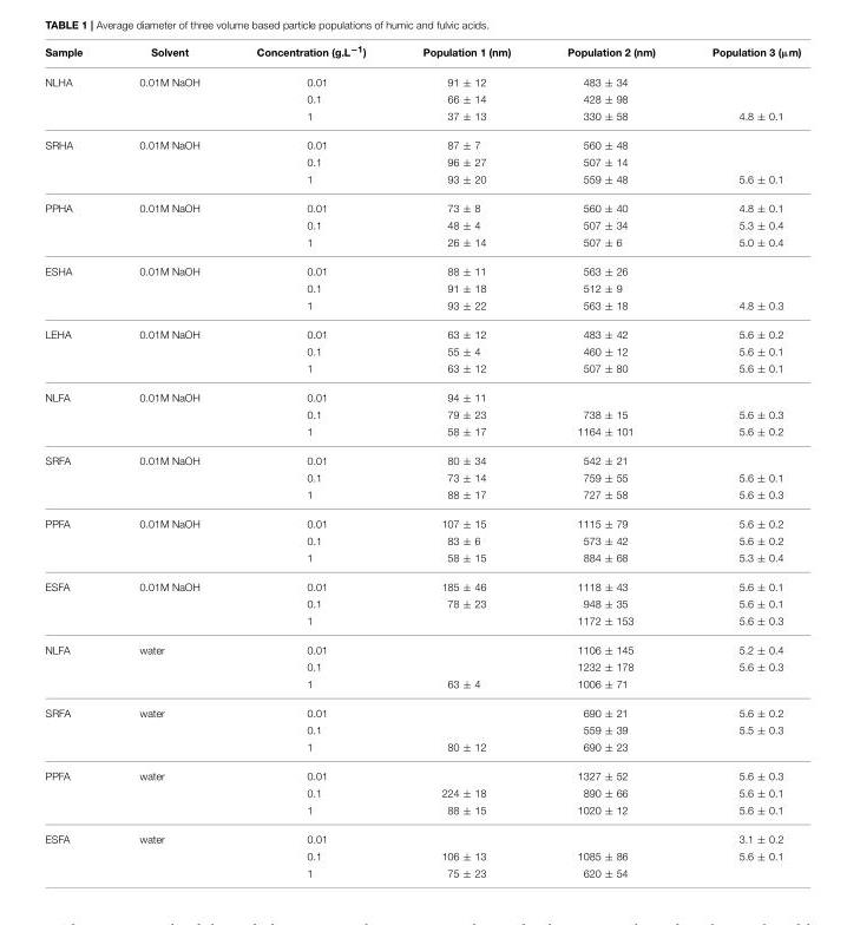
<table><thead><tr><td>Sample</td><td>Solvent</td><td>Concentration (g.L<sup>−1</sup>)</td><td>Population 1 (nm)</td><td>Population 2 (nm)</td><td>Population 3 (µm)</td></tr></thead><tbody><tr><td rowspan="3">NLHA</td><td>0.01M NaOH</td><td>0.01</td><td>91 ± 12</td><td>483 ± 34</td><td></td></tr><tr><td></td><td>0.1</td><td>66 ± 14</td><td>428 ± 98</td><td></td></tr><tr><td></td><td>1</td><td>37 ± 13</td><td>330 ± 58</td><td>4.8 ± 0.1</td></tr><tr><td rowspan="3">SRHA</td><td>0.01M NaOH</td><td>0.01</td><td>87 ± 7</td><td>560 ± 48</td><td></td></tr><tr><td></td><td>0.1</td><td>96 ± 27</td><td>507 ± 14</td><td></td></tr><tr><td></td><td>1</td><td>93 ± 20</td><td>559 ± 48</td><td>5.6 ± 0.1</td></tr><tr><td rowspan="3">PPHA</td><td>0.01M NaOH</td><td>0.01</td><td>73 ± 8</td><td>560 ± 40</td><td>4.8 ± 0.1</td></tr><tr><td></td><td>0.1</td><td>48 ± 4</td><td>507 ± 34</td><td>5.3 ± 0.4</td></tr><tr><td></td><td>1</td><td>26 ± 14</td><td>507 ± 6</td><td>5.0 ± 0.4</td></tr><tr><td rowspan="3">ESHA</td><td>0.01M NaOH</td><td>0.01</td><td>88 ± 11</td><td>563 ± 26</td><td></td></tr><tr><td></td><td>0.1</td><td>91 ± 18</td><td>512 ± 9</td><td></td></tr><tr><td></td><td>1</td><td>93 ± 22</td><td>563 ± 18</td><td>4.8 ± 0.3</td></tr><tr><td rowspan="3">LEHA</td><td>0.01M NaOH</td><td>0.01</td><td>63 ± 12</td><td>483 ± 42</td><td>5.6 ± 0.2</td></tr><tr><td></td><td>0.1</td><td>55 ± 4</td><td>460 ± 12</td><td>5.6 ± 0.1</td></tr><tr><td></td><td>1</td><td>63 ± 12</td><td>507 ± 80</td><td>5.6 ± 0.1</td></tr><tr><td rowspan="3">NLFA</td><td>0.01M NaOH</td><td>0.01</td><td>94 ± 11</td><td></td><td></td></tr><tr><td></td><td>0.1</td><td>79 ± 23</td><td>738 ± 15</td><td>5.6 ± 0.3</td></tr><tr><td></td><td>1</td><td>58 ± 17</td><td>1164 ± 101</td><td>5.6 ± 0.2</td></tr><tr><td rowspan="3">SRFA</td><td>0.01M NaOH</td><td>0.01</td><td>80 ± 34</td><td>542 ± 21</td><td></td></tr><tr><td></td><td>0.1</td><td>73 ± 14</td><td>759 ± 55</td><td>5.6 ± 0.1</td></tr><tr><td></td><td>1</td><td>88 ± 17</td><td>727 ± 58</td><td>5.6 ± 0.3</td></tr><tr><td rowspan="3">PPFA</td><td>0.01M NaOH</td><td>0.01</td><td>107 ± 15</td><td>1115 ± 79</td><td>5.6 ± 0.2</td></tr><tr><td></td><td>0.1</td><td>83 ± 6</td><td>573 ± 42</td><td>5.6 ± 0.2</td></tr><tr><td></td><td>1</td><td>58 ± 15</td><td>884 ± 68</td><td>5.3 ± 0.4</td></tr><tr><td rowspan="3">ESFA</td><td>0.01M NaOH</td><td>0.01</td><td>185 ± 46</td><td>1118 ± 43</td><td>5.6 ± 0.1</td></tr><tr><td></td><td>0.1</td><td>78 ± 23</td><td>948 ± 35</td><td>5.6 ± 0.1</td></tr><tr><td></td><td>1</td><td></td><td>1172 ± 153</td><td>5.6 ± 0.3</td></tr><tr><td rowspan="3">NLFA</td><td>water</td><td>0.01</td><td></td><td>1106 ± 145</td><td>5.2 ± 0.4</td></tr><tr><td></td><td>0.1</td><td></td><td>1232 ± 178</td><td>5.6 ± 0.3</td></tr><tr><td></td><td>1</td><td>63 ± 4</td><td>1006 ± 71</td><td></td></tr><tr><td rowspan="3">SRFA</td><td>water</td><td>0.01</td><td></td><td>690 ± 21</td><td>5.6 ± 0.2</td></tr><tr><td></td><td>0.1</td><td></td><td>559 ± 39</td><td>5.5 ± 0.3</td></tr><tr><td></td><td>1</td><td>80 ± 12</td><td>690 ± 23</td><td></td></tr><tr><td rowspan="3">PPFA</td><td>water</td><td>0.01</td><td></td><td>1327 ± 52</td><td>5.6 ± 0.3</td></tr><tr><td></td><td>0.1</td><td>224 ± 18</td><td>890 ± 66</td><td>5.6 ± 0.1</td></tr><tr><td></td><td>1</td><td>88 ± 15</td><td>1020 ± 12</td><td>5.6 ± 0.1</td></tr><tr><td rowspan="3">ESFA</td><td>water</td><td>0.01</td><td></td><td></td><td>3.1 ± 0.2</td></tr><tr><td></td><td>0.1</td><td>106 ± 13</td><td>1085 ± 86</td><td>5.6 ± 0.1</td></tr><tr><td></td><td>1</td><td>75 ± 23</td><td>620 ± 54</td><td></td></tr></tbody></table>